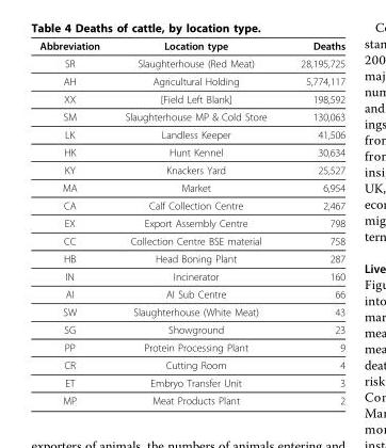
<table><thead><tr><td>Abbreviation</td><td>Location type</td><td>Deaths</td></tr></thead><tbody><tr><td>SR</td><td>Slaughterhouse (Red Meat)</td><td>28,195,725</td></tr><tr><td>AH</td><td>Agricultural Holding</td><td>5,774,117</td></tr><tr><td>XX</td><td>[Field Left Blank]</td><td>198,592</td></tr><tr><td>SM</td><td>Slaughterhouse MP &amp; Cold Store</td><td>130,063</td></tr><tr><td>LK</td><td>Landless Keeper</td><td>41,506</td></tr><tr><td>HK</td><td>Hunt Kennel</td><td>30,634</td></tr><tr><td>KY</td><td>Knackers Yard</td><td>25,527</td></tr><tr><td>MA</td><td>Market</td><td>6,954</td></tr><tr><td>CA</td><td>Calf Collection Centre</td><td>2,467</td></tr><tr><td>EX</td><td>Export Assembly Centre</td><td>798</td></tr><tr><td>CC</td><td>Collection Centre BSE material</td><td>758</td></tr><tr><td>HB</td><td>Head Boning Plant</td><td>287</td></tr><tr><td>IN</td><td>Incinerator</td><td>160</td></tr><tr><td>AI</td><td>AI Sub Centre</td><td>66</td></tr><tr><td>SW</td><td>Slaughterhouse (White Meat)</td><td>43</td></tr><tr><td>SG</td><td>Showground</td><td>23</td></tr><tr><td>PP</td><td>Protein Processing Plant</td><td>9</td></tr><tr><td>CR</td><td>Cutting Room</td><td>4</td></tr><tr><td>ET</td><td>Embryo Transfer Unit</td><td>3</td></tr><tr><td>MP</td><td>Meat Products Plant</td><td>2</td></tr></tbody></table>